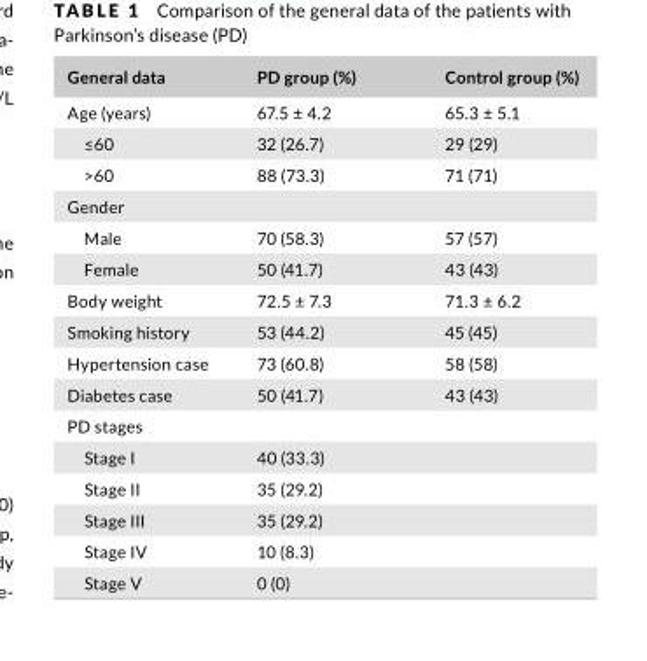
<table><thead><tr><td>General data</td><td>PD group (%)</td><td>Control group (%)</td></tr></thead><tbody><tr><td>Age (years)</td><td>67.5 ± 4.2</td><td>65.3 ± 5.1</td></tr><tr><td>≤60</td><td>32 (26.7)</td><td>29 (29)</td></tr><tr><td>&gt;60</td><td>88 (73.3)</td><td>71 (71)</td></tr><tr><td colspan="3">Gender</td></tr><tr><td>Male</td><td>70 (58.3)</td><td>57 (57)</td></tr><tr><td>Female</td><td>50 (41.7)</td><td>43 (43)</td></tr><tr><td>Body weight</td><td>72.5 ± 7.3</td><td>71.3 ± 6.2</td></tr><tr><td>Smoking history</td><td>53 (44.2)</td><td>45 (45)</td></tr><tr><td>Hypertension case</td><td>73 (60.8)</td><td>58 (58)</td></tr><tr><td>Diabetes case</td><td>50 (41.7)</td><td>43 (43)</td></tr><tr><td colspan="3">PD stages</td></tr><tr><td>Stage I</td><td>40 (33.3)</td><td></td></tr><tr><td>Stage II</td><td>35 (29.2)</td><td></td></tr><tr><td>Stage III</td><td>35 (29.2)</td><td></td></tr><tr><td>Stage IV</td><td>10 (8.3)</td><td></td></tr><tr><td>Stage V</td><td>0 (0)</td><td></td></tr></tbody></table>